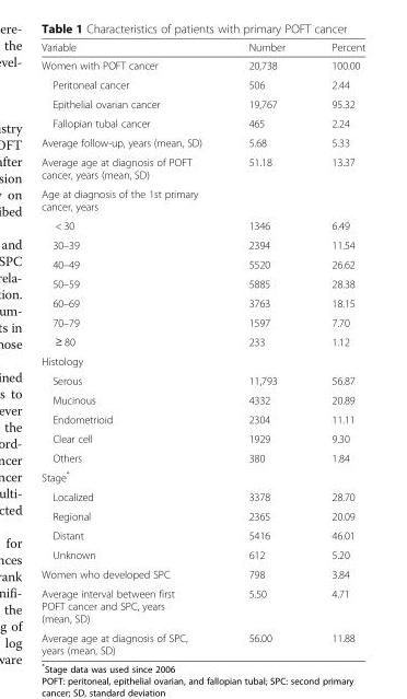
<table><thead><tr><td>Variable</td><td>Number</td><td>Percent</td></tr></thead><tbody><tr><td>Women with POFT cancer</td><td>20,738</td><td>100.00</td></tr><tr><td>Peritoneal cancer</td><td>506</td><td>2.44</td></tr><tr><td>Epithelial ovarian cancer</td><td>19,767</td><td>95.32</td></tr><tr><td>Fallopian tubal cancer</td><td>465</td><td>2.24</td></tr><tr><td>Average follow-up, years (mean, SD)</td><td>5.68</td><td>5.33</td></tr><tr><td>Average age at diagnosis of POFT cancer, years (mean, SD)</td><td>51.18</td><td>13.37</td></tr><tr><td colspan="3">Age at diagnosis of the 1st primary cancer, years</td></tr><tr><td>&lt; 30</td><td>1346</td><td>6.49</td></tr><tr><td>30–39</td><td>2394</td><td>11.54</td></tr><tr><td>40–49</td><td>5520</td><td>26.62</td></tr><tr><td>50–59</td><td>5885</td><td>28.38</td></tr><tr><td>60–69</td><td>3763</td><td>18.15</td></tr><tr><td>70–79</td><td>1597</td><td>7.70</td></tr><tr><td>≥ 80</td><td>233</td><td>1.12</td></tr><tr><td colspan="3">Histology</td></tr><tr><td>Serous</td><td>11,793</td><td>56.87</td></tr><tr><td>Mucinous</td><td>4332</td><td>20.89</td></tr><tr><td>Endometrioid</td><td>2304</td><td>11.11</td></tr><tr><td>Clear cell</td><td>1929</td><td>9.30</td></tr><tr><td>Others</td><td>380</td><td>1.84</td></tr><tr><td colspan="3">Stage*</td></tr><tr><td>Localized</td><td>3378</td><td>28.70</td></tr><tr><td>Regional</td><td>2365</td><td>20.09</td></tr><tr><td>Distant</td><td>5416</td><td>46.01</td></tr><tr><td>Unknown</td><td>612</td><td>5.20</td></tr><tr><td>Women who developed SPC</td><td>798</td><td>3.84</td></tr><tr><td>Average interval between first POFT cancer and SPC, years (mean, SD)</td><td>5.50</td><td>4.71</td></tr><tr><td>Average age at diagnosis of SPC, years (mean, SD)</td><td>56.00</td><td>11.88</td></tr></tbody></table>